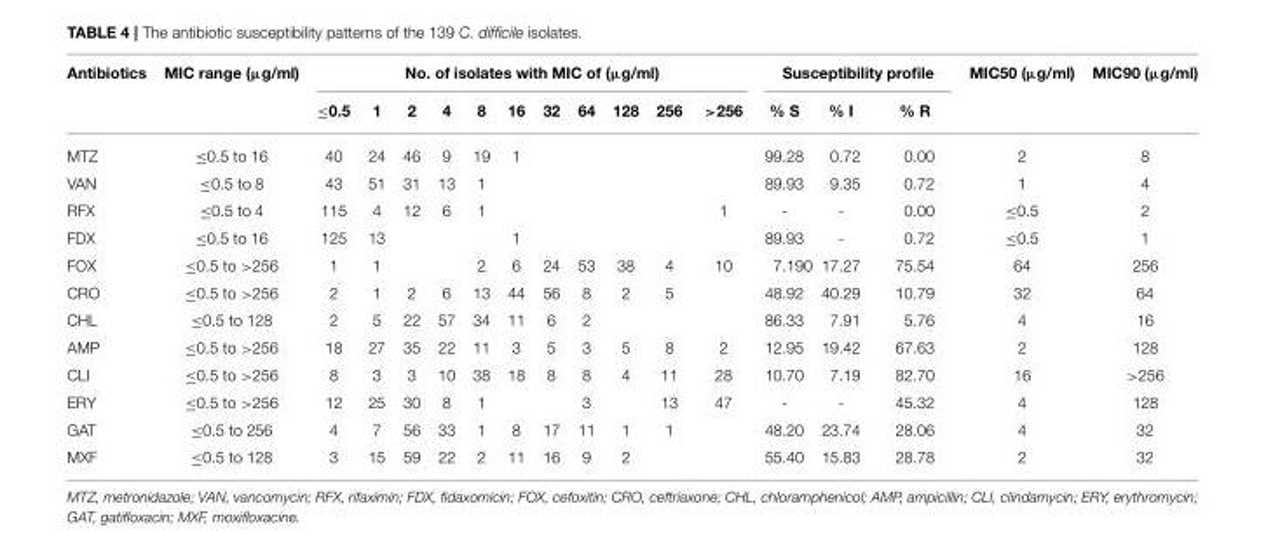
<table><thead><tr><td rowspan="2">Antibiotics</td><td rowspan="2">MIC range (µg/ml)</td><td colspan="11">No. of isolates with MIC of (µg/ml)</td><td colspan="3">Susceptibility profile</td><td rowspan="2">MIC50 (µg/ml)</td><td rowspan="2">MIC90 (µg/ml)</td></tr><tr><td>≤0.5</td><td>1</td><td>2</td><td>4</td><td>8</td><td>16</td><td>32</td><td>64</td><td>128</td><td>256</td><td>&gt;256</td><td>% S</td><td>% I</td><td>% R</td></tr></thead><tbody><tr><td>MTZ</td><td>≤0.5 to 16</td><td>40</td><td>24</td><td>46</td><td>9</td><td>19</td><td>1</td><td></td><td></td><td></td><td></td><td></td><td>99.28</td><td>0.72</td><td>0.00</td><td>2</td><td>8</td></tr><tr><td>VAN</td><td>≤0.5 to 8</td><td>43</td><td>51</td><td>31</td><td>13</td><td>1</td><td></td><td></td><td></td><td></td><td></td><td></td><td>89.93</td><td>9.35</td><td>0.72</td><td>1</td><td>4</td></tr><tr><td>RFX</td><td>≤0.5 to 4</td><td>115</td><td>4</td><td>12</td><td>6</td><td>1</td><td></td><td></td><td></td><td></td><td></td><td>1</td><td>-</td><td>-</td><td>0.00</td><td>≤0.5</td><td>2</td></tr><tr><td>FDX</td><td>≤0.5 to 16</td><td>125</td><td>13</td><td></td><td></td><td></td><td>1</td><td></td><td></td><td></td><td></td><td></td><td>89.93</td><td>-</td><td>0.72</td><td>≤0.5</td><td>1</td></tr><tr><td>FOX</td><td>≤0.5 to &gt;256</td><td>1</td><td>1</td><td></td><td></td><td>2</td><td>6</td><td>24</td><td>53</td><td>38</td><td>4</td><td>10</td><td>7.190</td><td>17.27</td><td>75.54</td><td>64</td><td>256</td></tr><tr><td>CRO</td><td>≤0.5 to &gt;256</td><td>2</td><td>1</td><td>2</td><td>6</td><td>13</td><td>44</td><td>56</td><td>8</td><td>2</td><td>5</td><td></td><td>48.92</td><td>40.29</td><td>10.79</td><td>32</td><td>64</td></tr><tr><td>CHL</td><td>≤0.5 to 128</td><td>2</td><td>5</td><td>22</td><td>57</td><td>34</td><td>11</td><td>6</td><td>2</td><td></td><td></td><td></td><td>86.33</td><td>7.91</td><td>5.76</td><td>4</td><td>16</td></tr><tr><td>AMP</td><td>≤0.5 to &gt;256</td><td>18</td><td>27</td><td>35</td><td>22</td><td>11</td><td>3</td><td>5</td><td>3</td><td>5</td><td>8</td><td>2</td><td>12.95</td><td>19.42</td><td>67.63</td><td>2</td><td>128</td></tr><tr><td>CLI</td><td>≤0.5 to &gt;256</td><td>8</td><td>3</td><td>3</td><td>10</td><td>38</td><td>18</td><td>8</td><td>8</td><td>4</td><td>11</td><td>28</td><td>10.70</td><td>7.19</td><td>82.70</td><td>16</td><td>&gt;256</td></tr><tr><td>ERY</td><td>≤0.5 to &gt;256</td><td>12</td><td>25</td><td>30</td><td>8</td><td>1</td><td></td><td></td><td>3</td><td></td><td>13</td><td>47</td><td>-</td><td>-</td><td>45.32</td><td>4</td><td>128</td></tr><tr><td>GAT</td><td>≤0.5 to 256</td><td>4</td><td>7</td><td>56</td><td>33</td><td>1</td><td>8</td><td>17</td><td>11</td><td>1</td><td>1</td><td></td><td>48.20</td><td>23.74</td><td>28.06</td><td>4</td><td>32</td></tr><tr><td>MXF</td><td>≤0.5 to 128</td><td>3</td><td>15</td><td>59</td><td>22</td><td>2</td><td>11</td><td>16</td><td>9</td><td>2</td><td></td><td></td><td>55.40</td><td>15.83</td><td>28.78</td><td>2</td><td>32</td></tr></tbody></table>